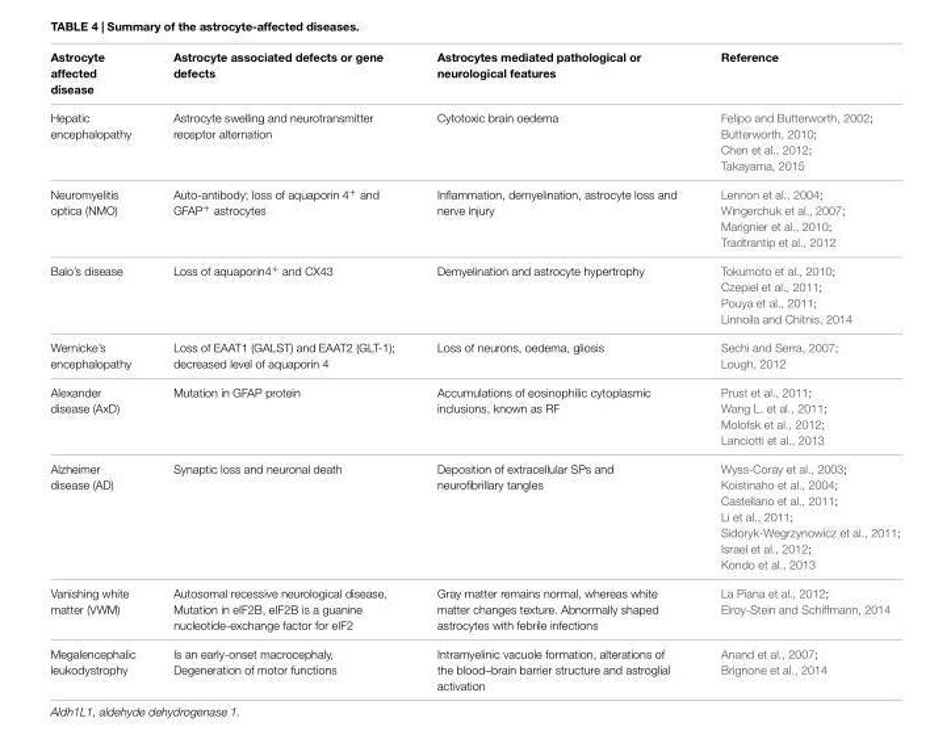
<table><thead><tr><td>Astrocyte affected disease</td><td>Astrocyte associated defects or gene defects</td><td>Astrocytes mediated pathological or neurological features</td><td>Reference</td></tr></thead><tbody><tr><td>Hepatic encephalopathy</td><td>Astrocyte swelling and neurotransmitter receptor alternation</td><td>Cytotoxic brain oedema</td><td>Felipo and Butterworth, 2002; Butterworth, 2010; Chen et al., 2012; Takayama, 2015</td></tr><tr><td>Neuromyelitis optica (NMO)</td><td>Auto-antibody; loss of aquaporin 4<sup>+</sup> and GFAP<sup>+</sup> astrocytes</td><td>Inflammation, demyelination, astrocyte loss and nerve injury</td><td>Lennon et al., 2004; Wingerchuk et al., 2007; Marignier et al., 2010; Tradtrantip et al., 2012</td></tr><tr><td>Balo’s disease</td><td>Loss of aquaporin4<sup>+</sup> and CX43</td><td>Demyelination and astrocyte hypertrophy</td><td>Tokumoto et al., 2010; Czepiel et al., 2011; Pouya et al., 2011; Linnoila and Chitnis, 2014</td></tr><tr><td>Wernicke’s encephalopathy</td><td>Loss of EAAT1 (GALST) and EAAT2 (GLT-1); decreased level of aquaporin 4</td><td>Loss of neurons, oedema, gliosis</td><td>Sechi and Serra, 2007; Lough, 2012</td></tr><tr><td>Alexander disease (AxD)</td><td>Mutation in GFAP protein</td><td>Accumulations of eosinophilic cytoplasmic inclusions, known as RF</td><td>Prust et al., 2011; Wang L. et al., 2011; Molofsk et al., 2012; Lanciotti et al., 2013</td></tr><tr><td>Alzheimer disease (AD)</td><td>Synaptic loss and neuronal death</td><td>Deposition of extracellular SPs and neurofibrillary tangles</td><td>Wyss-Coray et al., 2003; Koistinaho et al., 2004; Castellano et al., 2011; Li et al., 2011; Sidoryk-Wegrzynowicz et al., 2011; Israel et al., 2012; Kondo et al., 2013</td></tr><tr><td>Vanishing white matter (VWM)</td><td>Autosomal recessive neurological disease, Mutation in eIF2B, eIF2B is a guanine nucleotide-exchange factor for eIF2</td><td>Gray matter remains normal, whereas white matter changes texture. Abnormally shaped astrocytes with febrile infections</td><td>La Piana et al., 2012; Elroy-Stein and Schiffmann, 2014</td></tr><tr><td>Megalencephalic leukodystrophy</td><td>Is an early-onset macrocephaly, Degeneration of motor functions</td><td>Intramyelinic vacuole formation, alterations of the blood–brain barrier structure and astroglial activation</td><td>Anand et al., 2007; Brignone et al., 2014</td></tr></tbody></table>